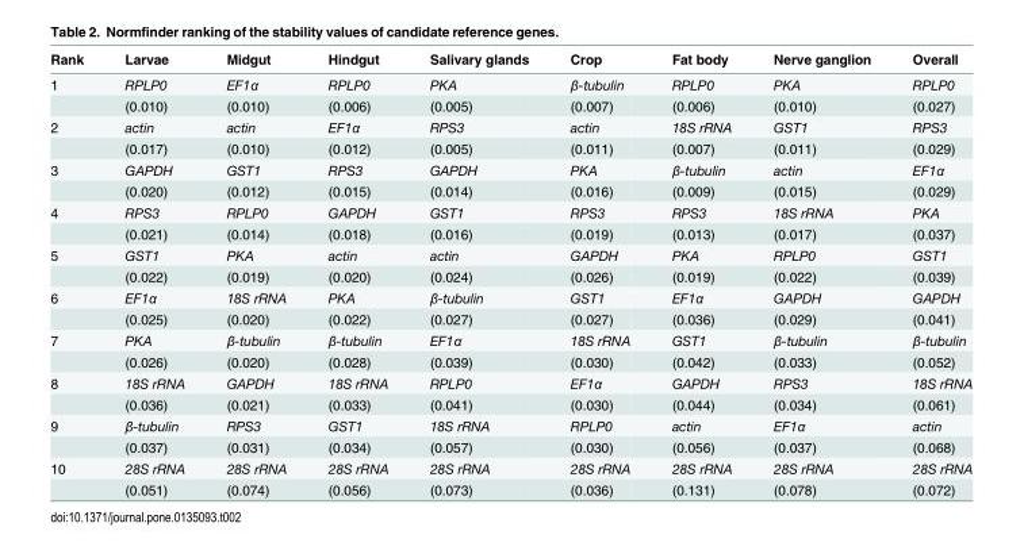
<table><thead><tr><td>Rank</td><td>Larvae</td><td>Midgut</td><td>Hindgut</td><td>Salivary glands</td><td>Crop</td><td>Fat body</td><td>Nerve ganglion</td><td>Overall</td></tr></thead><tbody><tr><td rowspan="2">1</td><td>RPLP0</td><td>EF1α</td><td>RPLP0</td><td>PKA</td><td>β-tubulin</td><td>RPLP0</td><td>PKA</td><td>RPLP0</td></tr><tr><td>(0.010)</td><td>(0.010)</td><td>(0.006)</td><td>(0.005)</td><td>(0.007)</td><td>(0.006)</td><td>(0.010)</td><td>(0.027)</td></tr><tr><td rowspan="2">2</td><td>actin</td><td>actin</td><td>EF1α</td><td>RPS3</td><td>actin</td><td>18S rRNA</td><td>GST1</td><td>RPS3</td></tr><tr><td>(0.017)</td><td>(0.010)</td><td>(0.012)</td><td>(0.005)</td><td>(0.011)</td><td>(0.007)</td><td>(0.011)</td><td>(0.029)</td></tr><tr><td rowspan="2">3</td><td>GAPDH</td><td>GST1</td><td>RPS3</td><td>GAPDH</td><td>PKA</td><td>β-tubulin</td><td>actin</td><td>EF1α</td></tr><tr><td>(0.020)</td><td>(0.012)</td><td>(0.015)</td><td>(0.014)</td><td>(0.016)</td><td>(0.009)</td><td>(0.015)</td><td>(0.029)</td></tr><tr><td rowspan="2">4</td><td>RPS3</td><td>RPLP0</td><td>GAPDH</td><td>GST1</td><td>RPS3</td><td>RPS3</td><td>18S rRNA</td><td>PKA</td></tr><tr><td>(0.021)</td><td>(0.014)</td><td>(0.018)</td><td>(0.016)</td><td>(0.019)</td><td>(0.013)</td><td>(0.017)</td><td>(0.037)</td></tr><tr><td rowspan="2">5</td><td>GST1</td><td>PKA</td><td>actin</td><td>actin</td><td>GAPDH</td><td>PKA</td><td>RPLP0</td><td>GST1</td></tr><tr><td>(0.022)</td><td>(0.019)</td><td>(0.020)</td><td>(0.024)</td><td>(0.026)</td><td>(0.019)</td><td>(0.022)</td><td>(0.039)</td></tr><tr><td rowspan="2">6</td><td>EF1α</td><td>18S rRNA</td><td>PKA</td><td>β-tubulin</td><td>GST1</td><td>EF1α</td><td>GAPDH</td><td>GAPDH</td></tr><tr><td>(0.025)</td><td>(0.020)</td><td>(0.022)</td><td>(0.027)</td><td>(0.027)</td><td>(0.036)</td><td>(0.029)</td><td>(0.041)</td></tr><tr><td rowspan="2">7</td><td>PKA</td><td>β-tubulin</td><td>β-tubulin</td><td>EF1α</td><td>18S rRNA</td><td>GST1</td><td>β-tubulin</td><td>β-tubulin</td></tr><tr><td>(0.026)</td><td>(0.020)</td><td>(0.028)</td><td>(0.039)</td><td>(0.030)</td><td>(0.042)</td><td>(0.033)</td><td>(0.052)</td></tr><tr><td rowspan="2">8</td><td>18S rRNA</td><td>GAPDH</td><td>18S rRNA</td><td>RPLP0</td><td>EF1α</td><td>GAPDH</td><td>RPS3</td><td>18S rRNA</td></tr><tr><td>(0.036)</td><td>(0.021)</td><td>(0.033)</td><td>(0.041)</td><td>(0.030)</td><td>(0.044)</td><td>(0.034)</td><td>(0.061)</td></tr><tr><td rowspan="2">9</td><td>β-tubulin</td><td>RPS3</td><td>GST1</td><td>18S rRNA</td><td>RPLP0</td><td>actin</td><td>EF1α</td><td>actin</td></tr><tr><td>(0.037)</td><td>(0.031)</td><td>(0.034)</td><td>(0.057)</td><td>(0.030)</td><td>(0.056)</td><td>(0.037)</td><td>(0.068)</td></tr><tr><td rowspan="2">10</td><td>28S rRNA</td><td>28S rRNA</td><td>28S rRNA</td><td>28S rRNA</td><td>28S rRNA</td><td>28S rRNA</td><td>28S rRNA</td><td>28S rRNA</td></tr><tr><td>(0.051)</td><td>(0.074)</td><td>(0.056)</td><td>(0.073)</td><td>(0.036)</td><td>(0.131)</td><td>(0.078)</td><td>(0.072)</td></tr></tbody></table>